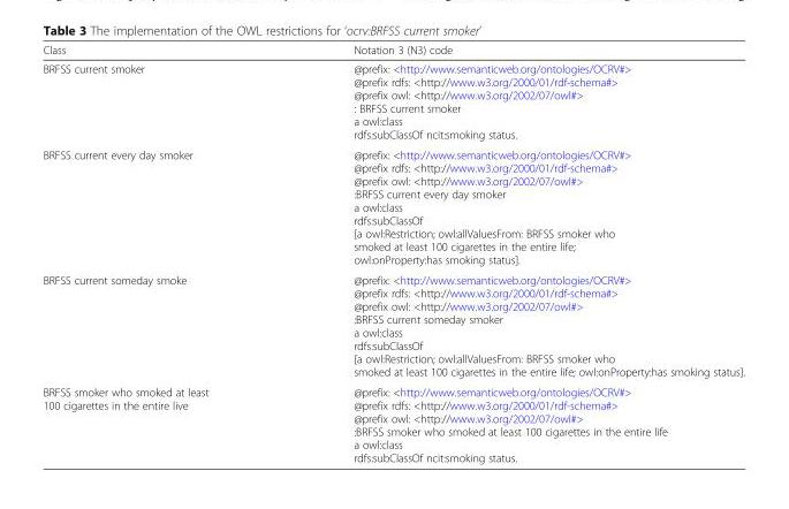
<table><thead><tr><td>Class</td><td>Notation 3 (N3) code</td></tr></thead><tbody><tr><td>BRFSS current smoker</td><td>@prefix: &lt;http://www.semanticweb.org/ontologies/OCRV#&gt; @prefix rdfs: &lt;http://www.w3.org/2000/01/rdf-schema#&gt; @prefix owl: &lt;http://www.w3.org/2002/07/owl#&gt; : BRFSS current smoker a owl:class rdfs:subClassOf ncit:smoking status.</td></tr><tr><td>BRFSS current every day smoker</td><td>@prefix: &lt;http://www.semanticweb.org/ontologies/OCRV#&gt; @prefix rdfs: &lt;http://www.w3.org/2000/01/rdf-schema#&gt; @prefix owl: &lt;http://www.w3.org/2002/07/owl#&gt; :BRFSS current every day smoker a owl:class rdfs:subClassOf [a owl:Restriction; owl:allValuesFrom: BRFSS smoker who smoked at least 100 cigarettes in the entire life; owl:onProperty:has smoking status].</td></tr><tr><td>BRFSS current someday smoke</td><td>@prefix: &lt;http://www.semanticweb.org/ontologies/OCRV#&gt; @prefix rdfs: &lt;http://www.w3.org/2000/01/rdf-schema#&gt; @prefix owl: &lt;http://www.w3.org/2002/07/owl#&gt; :BRFSS current someday smoker a owl:class rdfs:subClassOf [a owl:Restriction; owl:allValuesFrom: BRFSS smoker who smoked at least 100 cigarettes in the entire life; owl:onProperty:has smoking status].</td></tr><tr><td>BRFSS smoker who smoked at least 100 cigarettes in the entire live</td><td>@prefix: &lt;http://www.semanticweb.org/ontologies/OCRV#&gt; @prefix rdfs: &lt;http://www.w3.org/2000/01/rdf-schema#&gt; @prefix owl: &lt;http://www.w3.org/2002/07/owl#&gt; :BRFSS smoker who smoked at least 100 cigarettes in the entire life a owl:class rdfs:subClassOf ncit:smoking status.</td></tr></tbody></table>